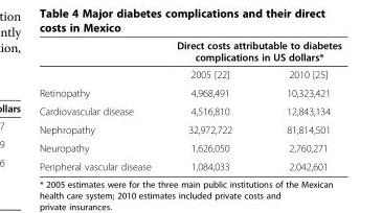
<table><thead><tr><td rowspan="2"></td><td colspan="2">Direct costs attributable to diabetes complications in US dollars*</td></tr><tr><td>2005 [22]</td><td>2010 [25]</td></tr></thead><tbody><tr><td>Retinopathy</td><td>4,968,491</td><td>10,323,421</td></tr><tr><td>Cardiovascular disease</td><td>4,516,810</td><td>12,843,134</td></tr><tr><td>Nephropathy</td><td>32,972,722</td><td>81,814,501</td></tr><tr><td>Neuropathy</td><td>1,626,050</td><td>2,760,271</td></tr><tr><td>Peripheral vascular disease</td><td>1,084,033</td><td>2,042,601</td></tr></tbody></table>